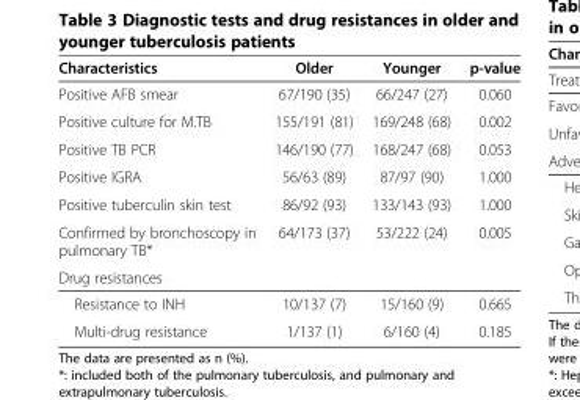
<table><thead><tr><td>Characteristics</td><td>Older</td><td>Younger</td><td>p-value</td></tr></thead><tbody><tr><td>Positive AFB smear</td><td>67/190 (35)</td><td>66/247 (27)</td><td>0.060</td></tr><tr><td>Positive culture for M.TB</td><td>155/191 (81)</td><td>169/248 (68)</td><td>0.002</td></tr><tr><td>Positive TB PCR</td><td>146/190 (77)</td><td>168/247 (68)</td><td>0.053</td></tr><tr><td>Positive IGRA</td><td>56/63 (89)</td><td>87/97 (90)</td><td>1.000</td></tr><tr><td>Positive tuberculin skin test</td><td>86/92 (93)</td><td>133/143 (93)</td><td>1.000</td></tr><tr><td>Confirmed by bronchoscopy in pulmonary TB*</td><td>64/173 (37)</td><td>53/222 (24)</td><td>0.005</td></tr><tr><td colspan="4">Drug resistances</td></tr><tr><td>Resistance to INH</td><td>10/137 (7)</td><td>15/160 (9)</td><td>0.665</td></tr><tr><td>Multi-drug resistance</td><td>1/137 (1)</td><td>6/160 (4)</td><td>0.185</td></tr></tbody></table>